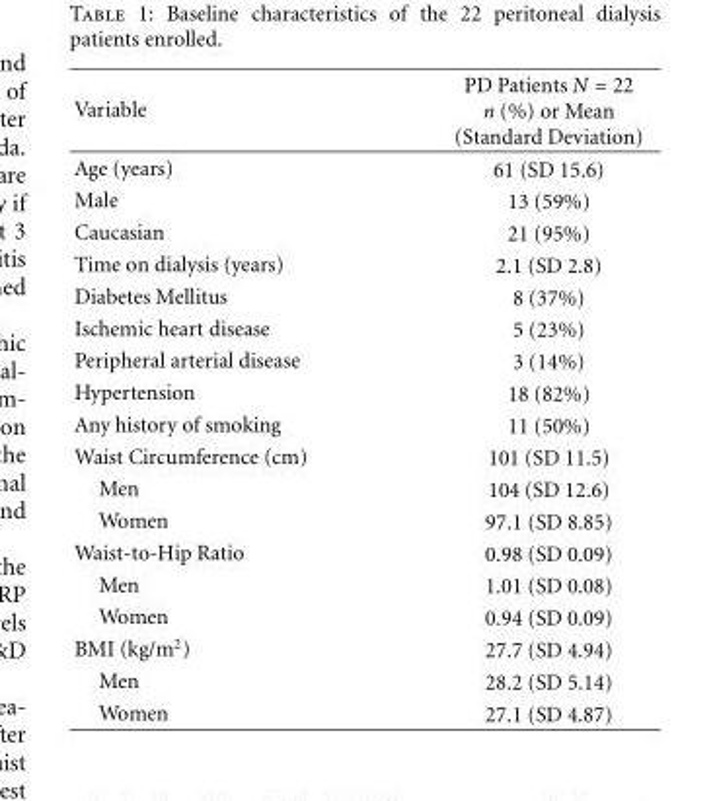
<table><thead><tr><td>Variable</td><td>PD Patients N = 22 n (%) or Mean (Standard Deviation)</td></tr></thead><tbody><tr><td>Age (years)</td><td>61 (SD 15.6)</td></tr><tr><td>Male</td><td>13 (59%)</td></tr><tr><td>Caucasian</td><td>21 (95%)</td></tr><tr><td>Time on dialysis (years)</td><td>2.1 (SD 2.8)</td></tr><tr><td>Diabetes Mellitus</td><td>8 (37%)</td></tr><tr><td>Ischemic heart disease</td><td>5 (23%)</td></tr><tr><td>Peripheral arterial disease</td><td>3 (14%)</td></tr><tr><td>Hypertension</td><td>18 (82%)</td></tr><tr><td>Any history of smoking</td><td>11 (50%)</td></tr><tr><td>Waist Circumference (cm)</td><td>101 (SD 11.5)</td></tr><tr><td>Men</td><td>104 (SD 12.6)</td></tr><tr><td>Women</td><td>97.1 (SD 8.85)</td></tr><tr><td>Waist-to-Hip Ratio</td><td>0.98 (SD 0.09)</td></tr><tr><td>Men</td><td>1.01 (SD 0.08)</td></tr><tr><td>Women</td><td>0.94 (SD 0.09)</td></tr><tr><td>BMI (kg/m<sup>2</sup>)</td><td>27.7 (SD 4.94)</td></tr><tr><td>Men</td><td>28.2 (SD 5.14)</td></tr><tr><td>Women</td><td>27.1 (SD 4.87)</td></tr></tbody></table>